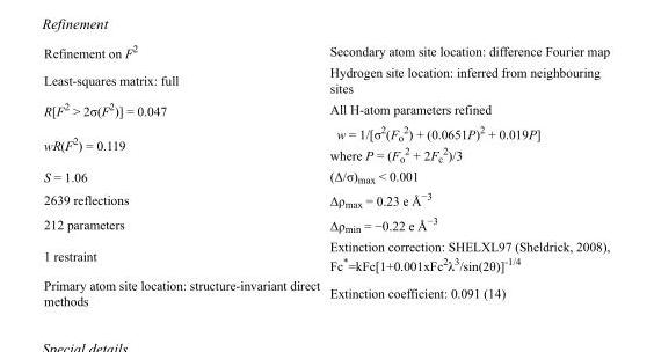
<table><tbody><tr><td>Refinement on F<sup>2</sup></td><td>Secondary atom site location: difference Fourier map</td></tr><tr><td>Least-squares matrix: full</td><td>Hydrogen site location: inferred from neighbouring sites</td></tr><tr><td>R[F<sup>2</sup> &gt; 2σ(F<sup>2</sup>)] = 0.047</td><td>All H-atom parameters refined</td></tr><tr><td>wR(F<sup>2</sup>) = 0.119</td><td>w = 1/[σ<sup>2</sup>(F<sub>o</sub> <sup>2</sup>) + (0.0651P)<sup>2</sup> + 0.019P] where P = (F<sub>o</sub> <sup>2</sup> + 2F<sub>c</sub> <sup>2</sup>)/3</td></tr><tr><td>S = 1.06</td><td>(Δ/σ)<sub>max</sub> &lt; 0.001</td></tr><tr><td>2639 reflections</td><td>Δρ<sub>max</sub> = 0.23 e Å<sup>−3</sup></td></tr><tr><td>212 parameters</td><td>Δρ<sub>min</sub> = −0.22 e Å<sup>−3</sup></td></tr><tr><td>1 restraint</td><td>Extinction correction: SHELXL97 (Sheldrick, 2008), Fc*=kFc[1+0.001xFc<sup>2</sup>λ<sup>3</sup>/sin(2θ)]<sup>-1/4</sup></td></tr><tr><td>Primary atom site location: structure-invariant direct methods</td><td>Extinction coefficient: 0.091 (14)</td></tr></tbody></table>